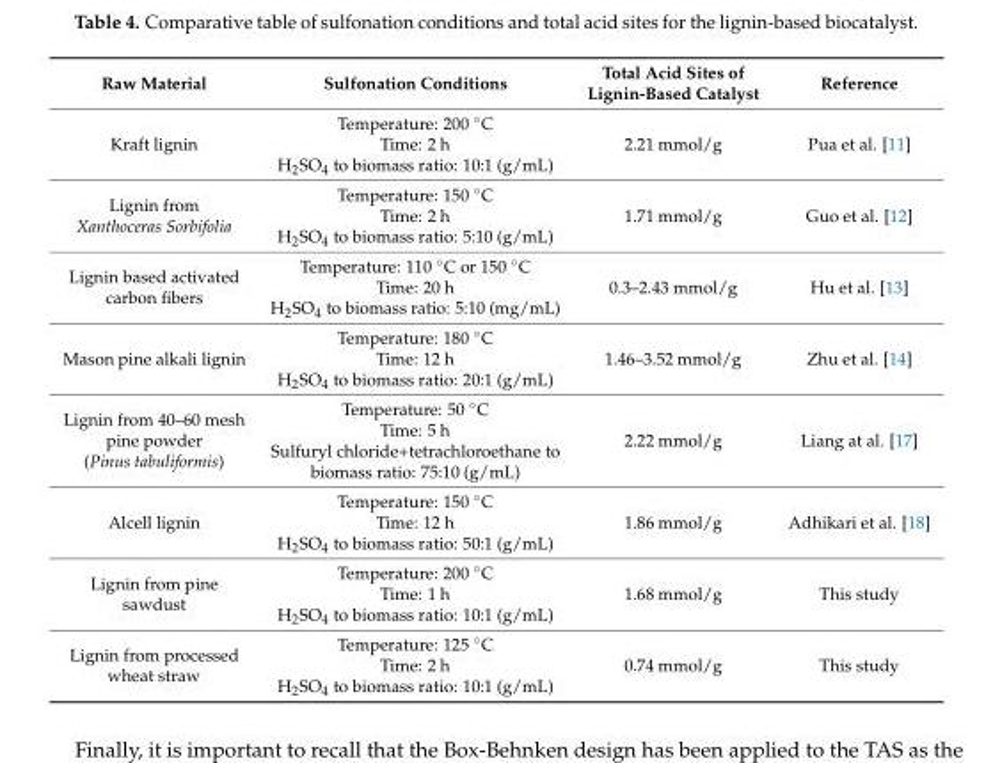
<table><thead><tr><td>Raw Material</td><td>Sulfonation Conditions</td><td>Total Acid Sites of Lignin-Based Catalyst</td><td>Reference</td></tr></thead><tbody><tr><td>Kraft lignin</td><td>Temperature: 200 ◦C Time: 2 h H2SO4 to biomass ratio: 10:1 (g/mL)</td><td>2.21 mmol/g</td><td>Pua et al. [11]</td></tr><tr><td>Lignin from Xanthoceras Sorbifolia</td><td>Temperature: 150 ◦C Time: 2 h H2SO4 to biomass ratio: 5:10 (g/mL)</td><td>1.71 mmol/g</td><td>Guo et al. [12]</td></tr><tr><td>Lignin based activated carbon fibers</td><td>Temperature: 110 ◦C or 150 ◦C Time: 20 h H2SO4 to biomass ratio: 5:10 (mg/mL)</td><td>0.3–2.43 mmol/g</td><td>Hu et al. [13]</td></tr><tr><td>Mason pine alkali lignin</td><td>Temperature: 180 ◦C Time: 12 h H2SO4 to biomass ratio: 20:1 (g/mL)</td><td>1.46–3.52 mmol/g</td><td>Zhu et al. [14]</td></tr><tr><td>Lignin from 40–60 mesh pine powder (Pinus tabuliformis)</td><td>Temperature: 50 ◦C Time: 5 h Sulfuryl chloride+tetrachloroethane to biomass ratio: 75:10 (g/mL)</td><td>2.22 mmol/g</td><td>Liang at al. [17]</td></tr><tr><td>Alcell lignin</td><td>Temperature: 150 ◦C Time: 12 h H2SO4 to biomass ratio: 50:1 (g/mL)</td><td>1.86 mmol/g</td><td>Adhikari et al. [18]</td></tr><tr><td>Lignin from pine sawdust</td><td>Temperature: 200 ◦C Time: 1 h H2SO4 to biomass ratio: 10:1 (g/mL)</td><td>1.68 mmol/g</td><td>This study</td></tr><tr><td>Lignin from processed wheat straw</td><td>Temperature: 125 ◦C Time: 2 h H2SO4 to biomass ratio: 10:1 (g/mL)</td><td>0.74 mmol/g</td><td>This study</td></tr></tbody></table>